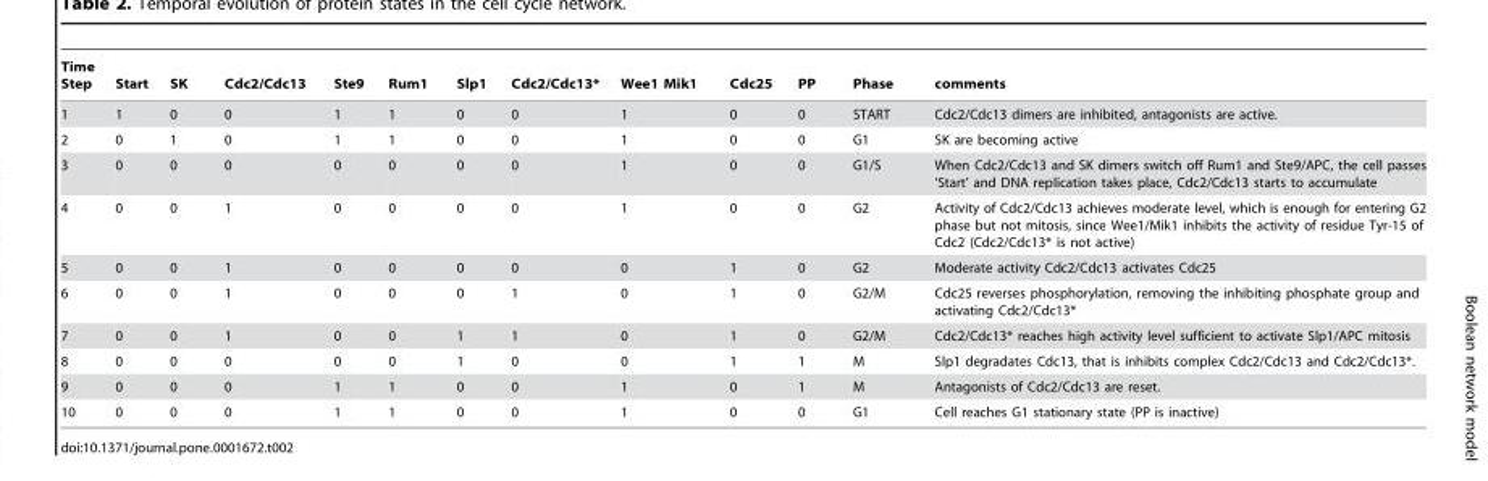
<table><thead><tr><td>Time Step</td><td>Start</td><td>SK</td><td>Cdc2/Cdc13</td><td>Ste9</td><td>Rum1</td><td>Slp1</td><td>Cdc2/Cdc13*</td><td>Wee1 Mik1</td><td>Cdc25</td><td>PP</td><td>Phase</td><td>comments</td></tr></thead><tbody><tr><td>1</td><td>1</td><td>0</td><td>0</td><td>1</td><td>1</td><td>0</td><td>0</td><td>1</td><td>0</td><td>0</td><td>START</td><td>Cdc2/Cdc13 dimers are inhibited, antagonists are active.</td></tr><tr><td>2</td><td>0</td><td>1</td><td>0</td><td>1</td><td>1</td><td>0</td><td>0</td><td>1</td><td>0</td><td>0</td><td>G1</td><td>SK are becoming active</td></tr><tr><td>3</td><td>0</td><td>0</td><td>0</td><td>0</td><td>0</td><td>0</td><td>0</td><td>1</td><td>0</td><td>0</td><td>G1/S</td><td>When Cdc2/Cdc13 and SK dimers switch off Rum1 and Ste9/APC, the cell passes ‘Start’ and DNA replication takes place, Cdc2/Cdc13 starts to accumulate</td></tr><tr><td>4</td><td>0</td><td>0</td><td>1</td><td>0</td><td>0</td><td>0</td><td>0</td><td>1</td><td>0</td><td>0</td><td>G2</td><td>Activity of Cdc2/Cdc13 achieves moderate level, which is enough for entering G2 phase but not mitosis, since Wee1/Mik1 inhibits the activity of residue Tyr-15 of Cdc2 (Cdc2/Cdc13* is not active)</td></tr><tr><td>5</td><td>0</td><td>0</td><td>1</td><td>0</td><td>0</td><td>0</td><td>0</td><td>0</td><td>1</td><td>0</td><td>G2</td><td>Moderate activity Cdc2/Cdc13 activates Cdc25</td></tr><tr><td>6</td><td>0</td><td>0</td><td>1</td><td>0</td><td>0</td><td>0</td><td>1</td><td>0</td><td>1</td><td>0</td><td>G2/M</td><td>Cdc25 reverses phosphorylation, removing the inhibiting phosphate group and activating Cdc2/Cdc13*</td></tr><tr><td>7</td><td>0</td><td>0</td><td>1</td><td>0</td><td>0</td><td>1</td><td>1</td><td>0</td><td>1</td><td>0</td><td>G2/M</td><td>Cdc2/Cdc13* reaches high activity level sufficient to activate Slp1/APC mitosis</td></tr><tr><td>8</td><td>0</td><td>0</td><td>0</td><td>0</td><td>0</td><td>1</td><td>0</td><td>0</td><td>1</td><td>1</td><td>M</td><td>Slp1 degradates Cdc13, that is inhibits complex Cdc2/Cdc13 and Cdc2/Cdc13*.</td></tr><tr><td>9</td><td>0</td><td>0</td><td>0</td><td>1</td><td>1</td><td>0</td><td>0</td><td>1</td><td>0</td><td>1</td><td>M</td><td>Antagonists of Cdc2/Cdc13 are reset.</td></tr><tr><td>10</td><td>0</td><td>0</td><td>0</td><td>1</td><td>1</td><td>0</td><td>0</td><td>1</td><td>0</td><td>0</td><td>G1</td><td>Cell reaches G1 stationary state (PP is inactive)</td></tr></tbody></table>